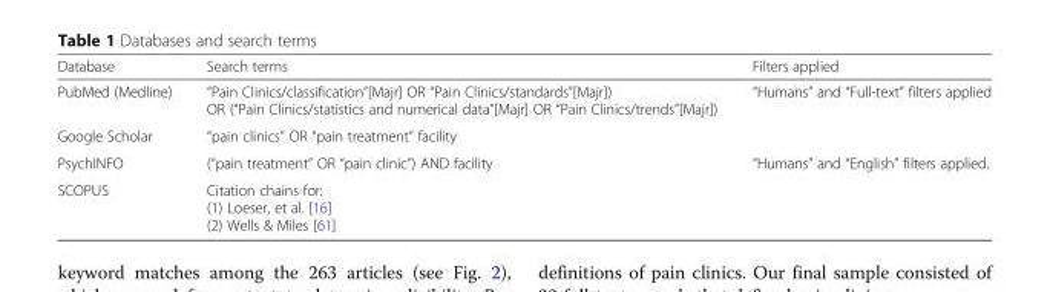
<table><thead><tr><td>Database</td><td>Search terms</td><td>Filters applied</td></tr></thead><tbody><tr><td>PubMed (Medline)</td><td>“Pain Clinics/classification”[Majr] OR “Pain Clinics/standards”[Majr]) OR (“Pain Clinics/statistics and numerical data”[Majr] OR “Pain Clinics/trends”[Majr])</td><td>“Humans” and “Full-text” filters applied</td></tr><tr><td>Google Scholar</td><td>“pain clinics” OR “pain treatment” facility</td><td></td></tr><tr><td>PsychINFO</td><td>(“pain treatment” OR “pain clinic”) AND facility</td><td>“Humans” and “English” filters applied.</td></tr><tr><td>SCOPUS</td><td>Citation chains for: (1) Loeser, et al. [16] (2) Wells &amp; Miles [61]</td><td></td></tr></tbody></table>